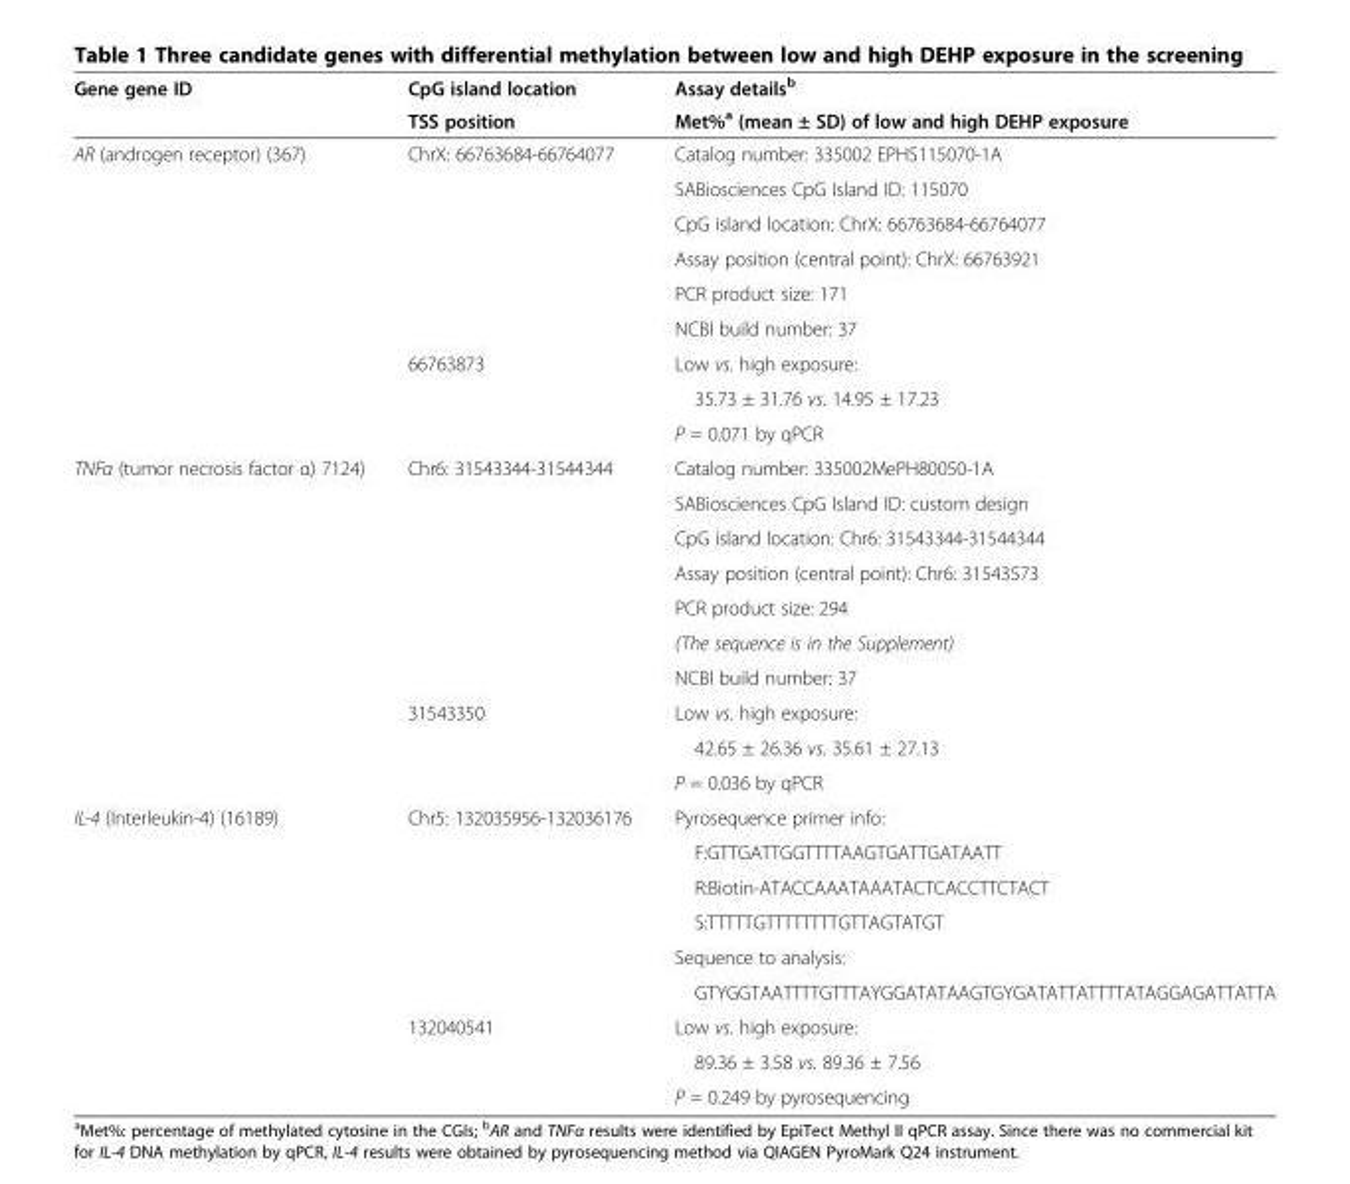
<table><thead><tr><td rowspan="2">Gene gene ID</td><td rowspan="2">CpG island location TSS position</td><td rowspan="2">Assay details<sup>b</sup> Met%<sup>a</sup> (mean ± SD) of low and high DEHP exposure</td></tr><tr></tr></thead><tbody><tr><td rowspan="9">AR (androgen receptor) (367)</td><td rowspan="6">ChrX: 66763684-66764077</td><td>Catalog number: 335002 EPHS115070-1A</td></tr><tr><td>SABiosciences CpG Island ID: 115070</td></tr><tr><td>CpG island location: ChrX: 66763684-66764077</td></tr><tr><td>Assay position (central point): ChrX: 66763921</td></tr><tr><td>PCR product size: 171</td></tr><tr><td>NCBI build number: 37</td></tr><tr><td rowspan="3">66763873</td><td>Low vs. high exposure:</td></tr><tr><td>35.73 ± 31.76 vs. 14.95 ± 17.23</td></tr><tr><td>P = 0.071 by qPCR</td></tr><tr><td rowspan="10">TNFα (tumor necrosis factor α) 7124)</td><td rowspan="7">Chr6: 31543344-31544344</td><td>Catalog number: 335002MePH80050-1A</td></tr><tr><td>SABiosciences CpG Island ID: custom design</td></tr><tr><td>CpG island location: Chr6: 31543344-31544344</td></tr><tr><td>Assay position (central point): Chr6: 31543573</td></tr><tr><td>PCR product size: 294</td></tr><tr><td>(The sequence is in the Supplement)</td></tr><tr><td>NCBI build number: 37</td></tr><tr><td rowspan="3">31543350</td><td>Low vs. high exposure:</td></tr><tr><td>42.65 ± 26.36 vs. 35.61 ± 27.13</td></tr><tr><td>P = 0.036 by qPCR</td></tr><tr><td rowspan="9">IL-4 (Interleukin-4) (16189)</td><td rowspan="6">Chr5: 132035956-132036176</td><td>Pyrosequence primer info:</td></tr><tr><td>F:GTTGATTGGTTTTAAGTGATTGATAATT</td></tr><tr><td>R:Biotin-ATACCAAATAAATACTCACCTTCTACT</td></tr><tr><td>S:TTTTTGTTTTTTTTGTTAGTATGT</td></tr><tr><td>Sequence to analysis:</td></tr><tr><td>GTYGGTAATTTTGTTTAYGGATATAAGTGYGATATTATTTTATAGGAGATTATTA</td></tr><tr><td rowspan="3">132040541</td><td>Low vs. high exposure:</td></tr><tr><td>89.36 ± 3.58 vs. 89.36 ± 7.56</td></tr><tr><td>P = 0.249 by pyrosequencing</td></tr></tbody></table>